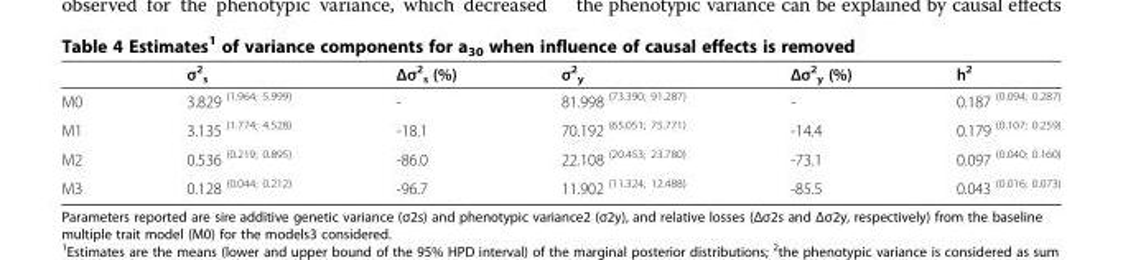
<table><thead><tr><td></td><td>σ<sup>2</sup> <sub>s</sub></td><td>Δσ<sup>2</sup> <sub>s</sub> (%)</td><td>σ<sup>2</sup> <sub>y</sub></td><td>Δσ<sup>2</sup> <sub>y</sub> (%)</td><td>h<sup>2</sup></td></tr></thead><tbody><tr><td>M0</td><td>3.829 <sup>(1.964; 5.999)</sup></td><td>-</td><td>81.998 <sup>(73.390; 91.287)</sup></td><td>-</td><td>0.187 <sup>(0.094; 0.287)</sup></td></tr><tr><td>M1</td><td>3.135 <sup>(1.774; 4.528)</sup></td><td>-18.1</td><td>70.192 <sup>(65.051; 75.771)</sup></td><td>-14.4</td><td>0.179 <sup>(0.107; 0.259)</sup></td></tr><tr><td>M2</td><td>0.536 <sup>(0.219; 0.895)</sup></td><td>-86.0</td><td>22.108 <sup>(20.453; 23.780)</sup></td><td>-73.1</td><td>0.097 <sup>(0.040; 0.160)</sup></td></tr><tr><td>M3</td><td>0.128 <sup>(0.044; 0.212)</sup></td><td>-96.7</td><td>11.902 <sup>(11.324; 12.488)</sup></td><td>-85.5</td><td>0.043 <sup>(0.016; 0.073)</sup></td></tr></tbody></table>